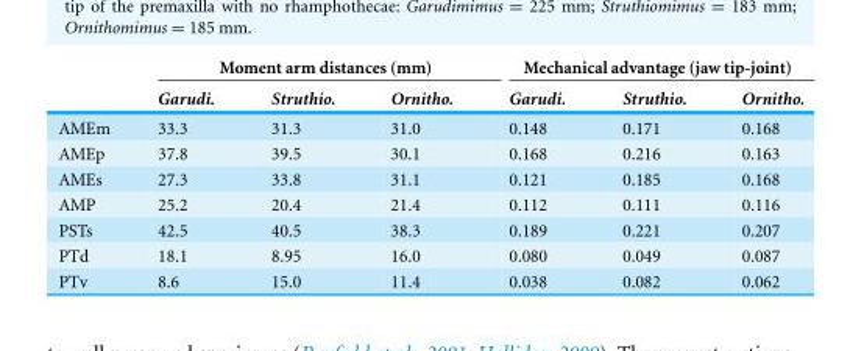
<table><thead><tr><td rowspan="2"></td><td colspan="3">Moment arm distances (mm)</td><td colspan="3">Mechanical advantage (jaw tip-joint)</td></tr><tr><td>Garudi.</td><td>Struthio.</td><td>Ornitho.</td><td>Garudi.</td><td>Struthio.</td><td>Ornitho.</td></tr></thead><tbody><tr><td>AMEm</td><td>33.3</td><td>31.3</td><td>31.0</td><td>0.148</td><td>0.171</td><td>0.168</td></tr><tr><td>AMEp</td><td>37.8</td><td>39.5</td><td>30.1</td><td>0.168</td><td>0.216</td><td>0.163</td></tr><tr><td>AMEs</td><td>27.3</td><td>33.8</td><td>31.1</td><td>0.121</td><td>0.185</td><td>0.168</td></tr><tr><td>AMP</td><td>25.2</td><td>20.4</td><td>21.4</td><td>0.112</td><td>0.111</td><td>0.116</td></tr><tr><td>PSTs</td><td>42.5</td><td>40.5</td><td>38.3</td><td>0.189</td><td>0.221</td><td>0.207</td></tr><tr><td>PTd</td><td>18.1</td><td>8.95</td><td>16.0</td><td>0.080</td><td>0.049</td><td>0.087</td></tr><tr><td>PTv</td><td>8.6</td><td>15.0</td><td>11.4</td><td>0.038</td><td>0.082</td><td>0.062</td></tr></tbody></table>